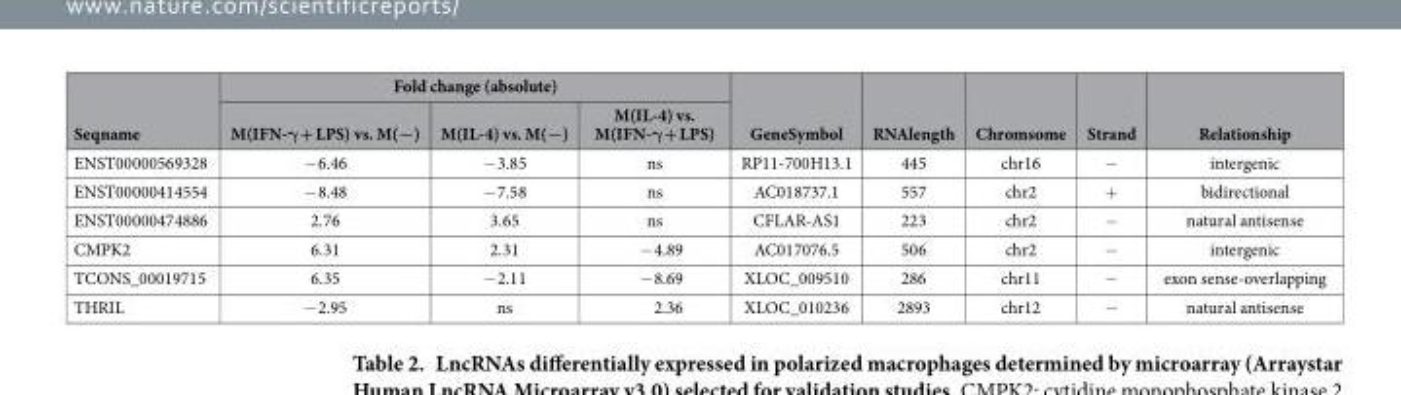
<table><thead><tr><td rowspan="2">Seqname</td><td colspan="3">Fold change (absolute)</td><td rowspan="2">GeneSymbol</td><td rowspan="2">RNAlength</td><td rowspan="2">Chromsome</td><td rowspan="2">Strand</td><td rowspan="2">Relationship</td></tr><tr><td>M(IFN-γ + LPS) vs. M(−)</td><td>M(IL-4) vs. M(−)</td><td>M(IL-4) vs. M(IFN-γ + LPS)</td></tr></thead><tbody><tr><td>ENST00000569328</td><td>− 6.46</td><td>− 3.85</td><td>ns</td><td>RP11-700H13.1</td><td>445</td><td>chr16</td><td>−</td><td>intergenic</td></tr><tr><td>ENST00000414554</td><td>− 8.48</td><td>− 7.58</td><td>ns</td><td>AC018737.1</td><td>557</td><td>chr2</td><td>+</td><td>bidirectional</td></tr><tr><td>ENST00000474886</td><td>2.76</td><td>3.65</td><td>ns</td><td>CFLAR-AS1</td><td>223</td><td>chr2</td><td>−</td><td>natural antisense</td></tr><tr><td>CMPK2</td><td>6.31</td><td>2.31</td><td>− 4.89</td><td>AC017076.5</td><td>506</td><td>chr2</td><td>−</td><td>intergenic</td></tr><tr><td>TCONS_00019715</td><td>6.35</td><td>− 2.11</td><td>− 8.69</td><td>XLOC_009510</td><td>286</td><td>chr11</td><td>−</td><td>exon sense-overlapping</td></tr><tr><td>THRIL</td><td>− 2.95</td><td>ns</td><td>2.36</td><td>XLOC_010236</td><td>2893</td><td>chr12</td><td>−</td><td>natural antisense</td></tr></tbody></table>